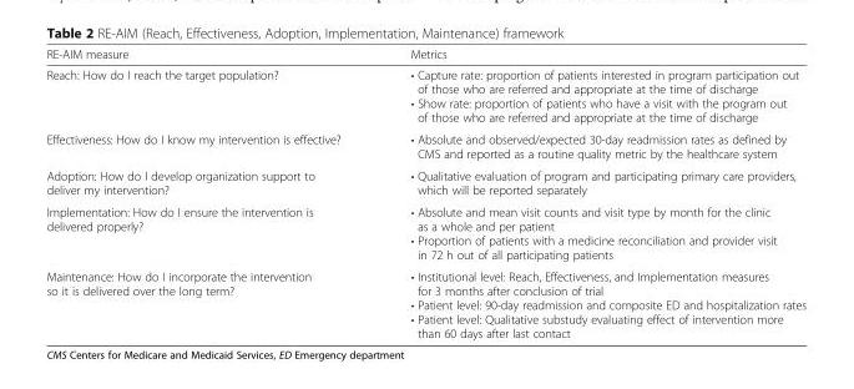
<table><thead><tr><td>RE-AIM measure</td><td>Metrics</td></tr></thead><tbody><tr><td>Reach: How do I reach the target population?</td><td>• Capture rate: proportion of patients interested in program participation out of those who are referred and appropriate at the time of discharge • Show rate: proportion of patients who have a visit with the program out of those who are referred and appropriate at the time of discharge</td></tr><tr><td>Effectiveness: How do I know my intervention is effective?</td><td>• Absolute and observed/expected 30-day readmission rates as defined by CMS and reported as a routine quality metric by the healthcare system</td></tr><tr><td>Adoption: How do I develop organization support to deliver my intervention?</td><td>• Qualitative evaluation of program and participating primary care providers, which will be reported separately</td></tr><tr><td>Implementation: How do I ensure the intervention is delivered properly?</td><td>• Absolute and mean visit counts and visit type by month for the clinic as a whole and per patient • Proportion of patients with a medicine reconciliation and provider visit in 72 h out of all participating patients</td></tr><tr><td>Maintenance: How do I incorporate the intervention so it is delivered over the long term?</td><td>• Institutional level: Reach, Effectiveness, and Implementation measures for 3 months after conclusion of trial • Patient level: 90-day readmission and composite ED and hospitalization rates • Patient level: Qualitative substudy evaluating effect of intervention more than 60 days after last contact</td></tr></tbody></table>